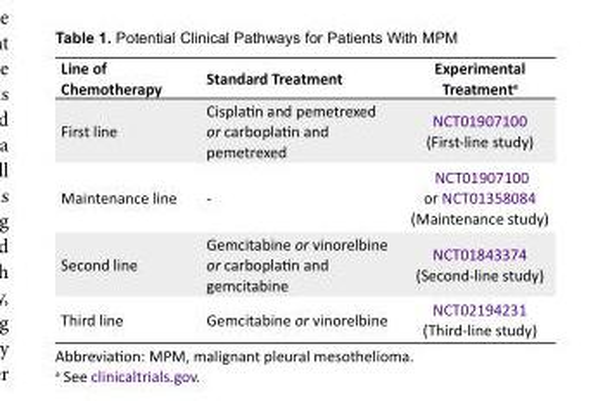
<table><tbody><tr><td>Line of Chemotherapy</td><td>Standard Treatment</td><td>Experimental Treatment<sup>a</sup></td></tr><tr><td>First line</td><td>Cisplatin and pemetrexed or carboplatin and pemetrexed</td><td>NCT01907100 (First-line study)</td></tr><tr><td>Maintenance line</td><td>-</td><td>NCT01907100 or NCT01358084 (Maintenance study)</td></tr><tr><td>Second line</td><td>Gemcitabine or vinorelbine or carboplatin and gemcitabine</td><td>NCT01843374 (Second-line study)</td></tr><tr><td>Third line</td><td>Gemcitabine or vinorelbine</td><td>NCT02194231 (Third-line study)</td></tr></tbody></table>